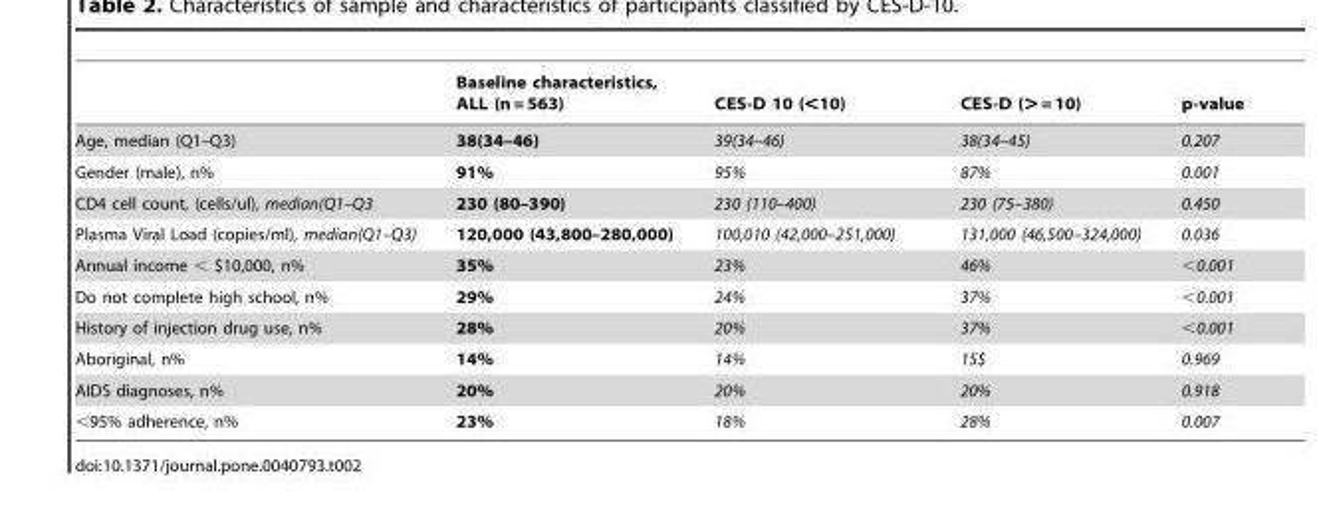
<table><thead><tr><td></td><td>Baseline characteristics, ALL (n = 563)</td><td>CES-D 10 (&lt;10)</td><td>CES-D (&gt; = 10)</td><td>p-value</td></tr></thead><tbody><tr><td>Age, median (Q1–Q3)</td><td>38(34–46)</td><td>39(34–46)</td><td>38(34–45)</td><td>0.207</td></tr><tr><td>Gender (male), n%</td><td>91%</td><td>95%</td><td>87%</td><td>0.001</td></tr><tr><td>CD4 cell count, (cells/ul), median(Q1–Q3</td><td>230 (80–390)</td><td>230 (110–400)</td><td>230 (75–380)</td><td>0.450</td></tr><tr><td>Plasma Viral Load (copies/ml), median(Q1–Q3)</td><td>120,000 (43,800–280,000)</td><td>100,010 (42,000–251,000)</td><td>131,000 (46,500–324,000)</td><td>0.036</td></tr><tr><td>Annual income &lt; $10,000, n%</td><td>35%</td><td>23%</td><td>46%</td><td>&lt;0.001</td></tr><tr><td>Do not complete high school, n%</td><td>29%</td><td>24%</td><td>37%</td><td>&lt;0.001</td></tr><tr><td>History of injection drug use, n%</td><td>28%</td><td>20%</td><td>37%</td><td>&lt;0.001</td></tr><tr><td>Aboriginal, n%</td><td>14%</td><td>14%</td><td>15$</td><td>0.969</td></tr><tr><td>AIDS diagnoses, n%</td><td>20%</td><td>20%</td><td>20%</td><td>0.918</td></tr><tr><td>&lt;95% adherence, n%</td><td>23%</td><td>18%</td><td>28%</td><td>0.007</td></tr></tbody></table>